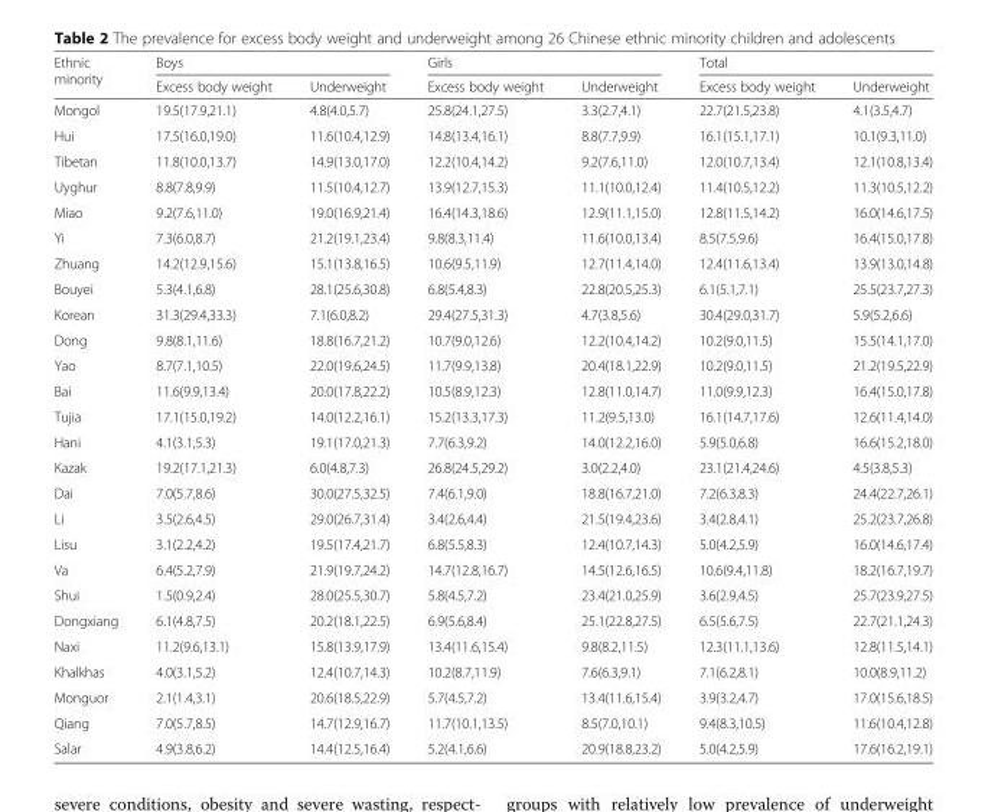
<table><thead><tr><td rowspan="2">Ethnic minority</td><td colspan="2">Boys</td><td colspan="2">Girls</td><td colspan="2">Total</td></tr><tr><td>Excess body weight</td><td>Underweight</td><td>Excess body weight</td><td>Underweight</td><td>Excess body weight</td><td>Underweight</td></tr></thead><tbody><tr><td>Mongol</td><td>19.5(17.9,21.1)</td><td>4.8(4.0,5.7)</td><td>25.8(24.1,27.5)</td><td>3.3(2.7,4.1)</td><td>22.7(21.5,23.8)</td><td>4.1(3.5,4.7)</td></tr><tr><td>Hui</td><td>17.5(16.0,19.0)</td><td>11.6(10.4,12.9)</td><td>14.8(13.4,16.1)</td><td>8.8(7.7,9.9)</td><td>16.1(15.1,17.1)</td><td>10.1(9.3,11.0)</td></tr><tr><td>Tibetan</td><td>11.8(10.0,13.7)</td><td>14.9(13.0,17.0)</td><td>12.2(10.4,14.2)</td><td>9.2(7.6,11.0)</td><td>12.0(10.7,13.4)</td><td>12.1(10.8,13.4)</td></tr><tr><td>Uyghur</td><td>8.8(7.8,9.9)</td><td>11.5(10.4,12.7)</td><td>13.9(12.7,15.3)</td><td>11.1(10.0,12.4)</td><td>11.4(10.5,12.2)</td><td>11.3(10.5,12.2)</td></tr><tr><td>Miao</td><td>9.2(7.6,11.0)</td><td>19.0(16.9,21.4)</td><td>16.4(14.3,18.6)</td><td>12.9(11.1,15.0)</td><td>12.8(11.5,14.2)</td><td>16.0(14.6,17.5)</td></tr><tr><td>Yi</td><td>7.3(6.0,8.7)</td><td>21.2(19.1,23.4)</td><td>9.8(8.3,11.4)</td><td>11.6(10.0,13.4)</td><td>8.5(7.5,9.6)</td><td>16.4(15.0,17.8)</td></tr><tr><td>Zhuang</td><td>14.2(12.9,15.6)</td><td>15.1(13.8,16.5)</td><td>10.6(9.5,11.9)</td><td>12.7(11.4,14.0)</td><td>12.4(11.6,13.4)</td><td>13.9(13.0,14.8)</td></tr><tr><td>Bouyei</td><td>5.3(4.1,6.8)</td><td>28.1(25.6,30.8)</td><td>6.8(5.4,8.3)</td><td>22.8(20.5,25.3)</td><td>6.1(5.1,7.1)</td><td>25.5(23.7,27.3)</td></tr><tr><td>Korean</td><td>31.3(29.4,33.3)</td><td>7.1(6.0,8.2)</td><td>29.4(27.5,31.3)</td><td>4.7(3.8,5.6)</td><td>30.4(29.0,31.7)</td><td>5.9(5.2,6.6)</td></tr><tr><td>Dong</td><td>9.8(8.1,11.6)</td><td>18.8(16.7,21.2)</td><td>10.7(9.0,12.6)</td><td>12.2(10.4,14.2)</td><td>10.2(9.0,11.5)</td><td>15.5(14.1,17.0)</td></tr><tr><td>Yao</td><td>8.7(7.1,10.5)</td><td>22.0(19.6,24.5)</td><td>11.7(9.9,13.8)</td><td>20.4(18.1,22.9)</td><td>10.2(9.0,11.5)</td><td>21.2(19.5,22.9)</td></tr><tr><td>Bai</td><td>11.6(9.9,13.4)</td><td>20.0(17.8,22.2)</td><td>10.5(8.9,12.3)</td><td>12.8(11.0,14.7)</td><td>11.0(9.9,12.3)</td><td>16.4(15.0,17.8)</td></tr><tr><td>Tujia</td><td>17.1(15.0,19.2)</td><td>14.0(12.2,16.1)</td><td>15.2(13.3,17.3)</td><td>11.2(9.5,13.0)</td><td>16.1(14.7,17.6)</td><td>12.6(11.4,14.0)</td></tr><tr><td>Hani</td><td>4.1(3.1,5.3)</td><td>19.1(17.0,21.3)</td><td>7.7(6.3,9.2)</td><td>14.0(12.2,16.0)</td><td>5.9(5.0,6.8)</td><td>16.6(15.2,18.0)</td></tr><tr><td>Kazak</td><td>19.2(17.1,21.3)</td><td>6.0(4.8,7.3)</td><td>26.8(24.5,29.2)</td><td>3.0(2.2,4.0)</td><td>23.1(21.4,24.6)</td><td>4.5(3.8,5.3)</td></tr><tr><td>Dai</td><td>7.0(5.7,8.6)</td><td>30.0(27.5,32.5)</td><td>7.4(6.1,9.0)</td><td>18.8(16.7,21.0)</td><td>7.2(6.3,8.3)</td><td>24.4(22.7,26.1)</td></tr><tr><td>Li</td><td>3.5(2.6,4.5)</td><td>29.0(26.7,31.4)</td><td>3.4(2.6,4.4)</td><td>21.5(19.4,23.6)</td><td>3.4(2.8,4.1)</td><td>25.2(23.7,26.8)</td></tr><tr><td>Lisu</td><td>3.1(2.2,4.2)</td><td>19.5(17.4,21.7)</td><td>6.8(5.5,8.3)</td><td>12.4(10.7,14.3)</td><td>5.0(4.2,5.9)</td><td>16.0(14.6,17.4)</td></tr><tr><td>Va</td><td>6.4(5.2,7.9)</td><td>21.9(19.7,24.2)</td><td>14.7(12.8,16.7)</td><td>14.5(12.6,16.5)</td><td>10.6(9.4,11.8)</td><td>18.2(16.7,19.7)</td></tr><tr><td>Shui</td><td>1.5(0.9,2.4)</td><td>28.0(25.5,30.7)</td><td>5.8(4.5,7.2)</td><td>23.4(21.0,25.9)</td><td>3.6(2.9,4.5)</td><td>25.7(23.9,27.5)</td></tr><tr><td>Dongxiang</td><td>6.1(4.8,7.5)</td><td>20.2(18.1,22.5)</td><td>6.9(5.6,8.4)</td><td>25.1(22.8,27.5)</td><td>6.5(5.6,7.5)</td><td>22.7(21.1,24.3)</td></tr><tr><td>Naxi</td><td>11.2(9.6,13.1)</td><td>15.8(13.9,17.9)</td><td>13.4(11.6,15.4)</td><td>9.8(8.2,11.5)</td><td>12.3(11.1,13.6)</td><td>12.8(11.5,14.1)</td></tr><tr><td>Khalkhas</td><td>4.0(3.1,5.2)</td><td>12.4(10.7,14.3)</td><td>10.2(8.7,11.9)</td><td>7.6(6.3,9.1)</td><td>7.1(6.2,8.1)</td><td>10.0(8.9,11.2)</td></tr><tr><td>Monguor</td><td>2.1(1.4,3.1)</td><td>20.6(18.5,22.9)</td><td>5.7(4.5,7.2)</td><td>13.4(11.6,15.4)</td><td>3.9(3.2,4.7)</td><td>17.0(15.6,18.5)</td></tr><tr><td>Qiang</td><td>7.0(5.7,8.5)</td><td>14.7(12.9,16.7)</td><td>11.7(10.1,13.5)</td><td>8.5(7.0,10.1)</td><td>9.4(8.3,10.5)</td><td>11.6(10.4,12.8)</td></tr><tr><td>Salar</td><td>4.9(3.8,6.2)</td><td>14.4(12.5,16.4)</td><td>5.2(4.1,6.6)</td><td>20.9(18.8,23.2)</td><td>5.0(4.2,5.9)</td><td>17.6(16.2,19.1)</td></tr></tbody></table>